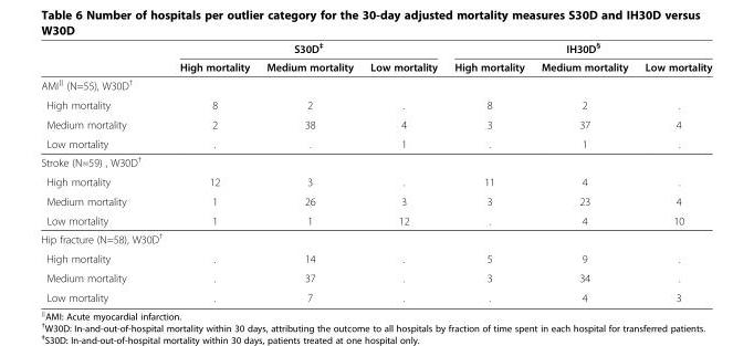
<table><thead><tr><td rowspan="2"></td><td colspan="3">S30D<sup>‡</sup></td><td colspan="3">IH30D<sup>§</sup></td></tr><tr><td>High mortality</td><td>Medium mortality</td><td>Low mortality</td><td>High mortality</td><td>Medium mortality</td><td>Low mortality</td></tr></thead><tbody><tr><td colspan="7">AMI<sup>∥</sup> (N=55), W30D<sup>†</sup></td></tr><tr><td>High mortality</td><td>8</td><td>2</td><td>.</td><td>8</td><td>2</td><td>.</td></tr><tr><td>Medium mortality</td><td>2</td><td>38</td><td>4</td><td>3</td><td>37</td><td>4</td></tr><tr><td>Low mortality</td><td>.</td><td>.</td><td>1</td><td>.</td><td>1</td><td>.</td></tr><tr><td colspan="7">Stroke (N=59) , W30D<sup>†</sup></td></tr><tr><td>High mortality</td><td>12</td><td>3</td><td>.</td><td>11</td><td>4</td><td>.</td></tr><tr><td>Medium mortality</td><td>1</td><td>26</td><td>3</td><td>3</td><td>23</td><td>4</td></tr><tr><td>Low mortality</td><td>1</td><td>1</td><td>12</td><td>.</td><td>4</td><td>10</td></tr><tr><td colspan="7">Hip fracture (N=58), W30D<sup>†</sup></td></tr><tr><td>High mortality</td><td>.</td><td>14</td><td>.</td><td>5</td><td>9</td><td>.</td></tr><tr><td>Medium mortality</td><td>.</td><td>37</td><td>.</td><td>3</td><td>34</td><td>.</td></tr><tr><td>Low mortality</td><td>.</td><td>7</td><td>.</td><td>.</td><td>4</td><td>3</td></tr></tbody></table>